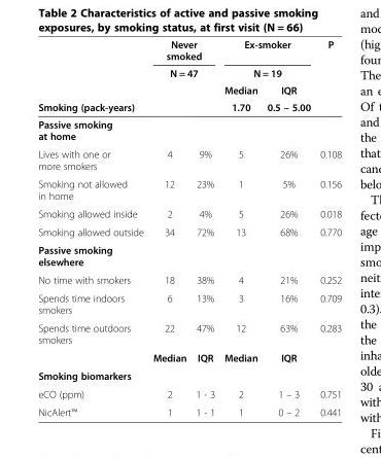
<table><thead><tr><td rowspan="4">Smoking (pack-years)</td><td rowspan="2" colspan="2">Never smoked N = 47</td><td rowspan="2" colspan="2">Ex-smoker N = 19</td><td rowspan="4">P</td></tr><tr></tr><tr><td rowspan="2"></td><td rowspan="2"></td><td rowspan="2">Median 1.70</td><td rowspan="2">IQR 0.5 – 5.00</td></tr><tr></tr></thead><tbody><tr><td colspan="6">Passive smoking at home</td></tr><tr><td>Lives with one or more smokers</td><td>4</td><td>9%</td><td>5</td><td>26%</td><td>0.108</td></tr><tr><td>Smoking not allowed in home</td><td>12</td><td>23%</td><td>1</td><td>5%</td><td>0.156</td></tr><tr><td>Smoking allowed inside</td><td>2</td><td>4%</td><td>5</td><td>26%</td><td>0.018</td></tr><tr><td>Smoking allowed outside</td><td>34</td><td>72%</td><td>13</td><td>68%</td><td>0.770</td></tr><tr><td colspan="6">Passive smoking elsewhere</td></tr><tr><td>No time with smokers</td><td>18</td><td>38%</td><td>4</td><td>21%</td><td>0.252</td></tr><tr><td>Spends time indoors smokers</td><td>6</td><td>13%</td><td>3</td><td>16%</td><td>0.709</td></tr><tr><td rowspan="2">Spends time outdoors smokers</td><td>22</td><td>47%</td><td>12</td><td>63%</td><td>0.283</td></tr><tr><td>Median</td><td>IQR</td><td>Median</td><td>IQR</td><td></td></tr><tr><td colspan="6">Smoking biomarkers</td></tr><tr><td>eCO (ppm)</td><td>2</td><td>1 - 3</td><td>2</td><td>1 – 3</td><td>0.751</td></tr><tr><td>NicAlert™</td><td>1</td><td>1 - 1</td><td>1</td><td>0 – 2</td><td>0.441</td></tr></tbody></table>